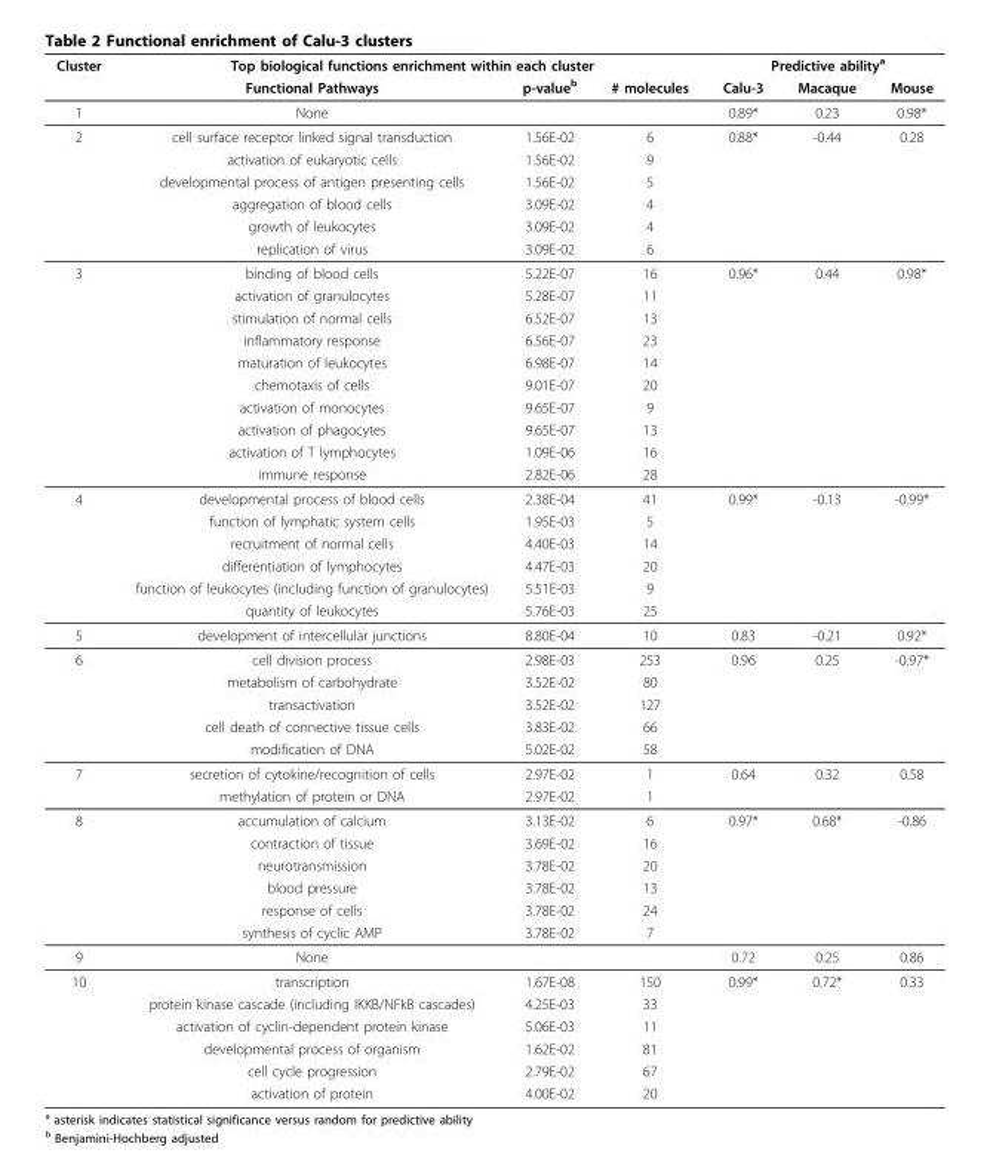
<table><thead><tr><td rowspan="2">Cluster</td><td colspan="3">Top biological functions enrichment within each cluster</td><td colspan="3">Predictive ability<sup>a</sup></td></tr><tr><td>Functional Pathways</td><td>p-value<sup>b</sup></td><td># molecules</td><td>Calu-3</td><td>Macaque</td><td>Mouse</td></tr></thead><tbody><tr><td>1</td><td>None</td><td></td><td></td><td>0.89*</td><td>0.23</td><td>0.98*</td></tr><tr><td rowspan="6">2</td><td>cell surface receptor linked signal transduction</td><td>1.56E-02</td><td>6</td><td>0.88*</td><td>-0.44</td><td>0.28</td></tr><tr><td>activation of eukaryotic cells</td><td>1.56E-02</td><td>9</td><td></td><td></td><td></td></tr><tr><td>developmental process of antigen presenting cells</td><td>1.56E-02</td><td>5</td><td></td><td></td><td></td></tr><tr><td>aggregation of blood cells</td><td>3.09E-02</td><td>4</td><td></td><td></td><td></td></tr><tr><td>growth of leukocytes</td><td>3.09E-02</td><td>4</td><td></td><td></td><td></td></tr><tr><td>replication of virus</td><td>3.09E-02</td><td>6</td><td></td><td></td><td></td></tr><tr><td rowspan="10">3</td><td>binding of blood cells</td><td>5.22E-07</td><td>16</td><td>0.96*</td><td>0.44</td><td>0.98*</td></tr><tr><td>activation of granulocytes</td><td>5.28E-07</td><td>11</td><td></td><td></td><td></td></tr><tr><td>stimulation of normal cells</td><td>6.52E-07</td><td>13</td><td></td><td></td><td></td></tr><tr><td>inflammatory response</td><td>6.56E-07</td><td>23</td><td></td><td></td><td></td></tr><tr><td>maturation of leukocytes</td><td>6.98E-07</td><td>14</td><td></td><td></td><td></td></tr><tr><td>chemotaxis of cells</td><td>9.01E-07</td><td>20</td><td></td><td></td><td></td></tr><tr><td>activation of monocytes</td><td>9.65E-07</td><td>9</td><td></td><td></td><td></td></tr><tr><td>activation of phagocytes</td><td>9.65E-07</td><td>13</td><td></td><td></td><td></td></tr><tr><td>activation of T lymphocytes</td><td>1.09E-06</td><td>16</td><td></td><td></td><td></td></tr><tr><td>immune response</td><td>2.82E-06</td><td>28</td><td></td><td></td><td></td></tr><tr><td rowspan="6">4</td><td>developmental process of blood cells</td><td>2.38E-04</td><td>41</td><td>0.99*</td><td>-0.13</td><td>-0.99*</td></tr><tr><td>function of lymphatic system cells</td><td>1.95E-03</td><td>5</td><td></td><td></td><td></td></tr><tr><td>recruitment of normal cells</td><td>4.40E-03</td><td>14</td><td></td><td></td><td></td></tr><tr><td>differentiation of lymphocytes</td><td>4.47E-03</td><td>20</td><td></td><td></td><td></td></tr><tr><td>function of leukocytes (including function of granulocytes)</td><td>5.51E-03</td><td>9</td><td></td><td></td><td></td></tr><tr><td>quantity of leukocytes</td><td>5.76E-03</td><td>25</td><td></td><td></td><td></td></tr><tr><td>5</td><td>development of intercellular junctions</td><td>8.80E-04</td><td>10</td><td>0.83</td><td>-0.21</td><td>0.92*</td></tr><tr><td rowspan="5">6</td><td>cell division process</td><td>2.98E-03</td><td>253</td><td>0.96</td><td>0.25</td><td>-0.97*</td></tr><tr><td>metabolism of carbohydrate</td><td>3.52E-02</td><td>80</td><td></td><td></td><td></td></tr><tr><td>transactivation</td><td>3.52E-02</td><td>127</td><td></td><td></td><td></td></tr><tr><td>cell death of connective tissue cells</td><td>3.83E-02</td><td>66</td><td></td><td></td><td></td></tr><tr><td>modification of DNA</td><td>5.02E-02</td><td>58</td><td></td><td></td><td></td></tr><tr><td rowspan="2">7</td><td>secretion of cytokine/recognition of cells</td><td>2.97E-02</td><td>1</td><td>0.64</td><td>0.32</td><td>0.58</td></tr><tr><td>methylation of protein or DNA</td><td>2.97E-02</td><td>1</td><td></td><td></td><td></td></tr><tr><td rowspan="6">8</td><td>accumulation of calcium</td><td>3.13E-02</td><td>6</td><td>0.97*</td><td>0.68*</td><td>-0.86</td></tr><tr><td>contraction of tissue</td><td>3.69E-02</td><td>16</td><td></td><td></td><td></td></tr><tr><td>neurotransmission</td><td>3.78E-02</td><td>20</td><td></td><td></td><td></td></tr><tr><td>blood pressure</td><td>3.78E-02</td><td>13</td><td></td><td></td><td></td></tr><tr><td>response of cells</td><td>3.78E-02</td><td>24</td><td></td><td></td><td></td></tr><tr><td>synthesis of cyclic AMP</td><td>3.78E-02</td><td>7</td><td></td><td></td><td></td></tr><tr><td>9</td><td>None</td><td></td><td></td><td>0.72</td><td>0.25</td><td>0.86</td></tr><tr><td rowspan="6">10</td><td>transcription</td><td>1.67E-08</td><td>150</td><td>0.99*</td><td>0.72*</td><td>0.33</td></tr><tr><td>protein kinase cascade (including IKKB/NFkB cascades)</td><td>4.25E-03</td><td>33</td><td></td><td></td><td></td></tr><tr><td>activation of cyclin-dependent protein kinase</td><td>5.06E-03</td><td>11</td><td></td><td></td><td></td></tr><tr><td>developmental process of organism</td><td>1.62E-02</td><td>81</td><td></td><td></td><td></td></tr><tr><td>cell cycle progression</td><td>2.79E-02</td><td>67</td><td></td><td></td><td></td></tr><tr><td>activation of protein</td><td>4.00E-02</td><td>20</td><td></td><td></td><td></td></tr></tbody></table>